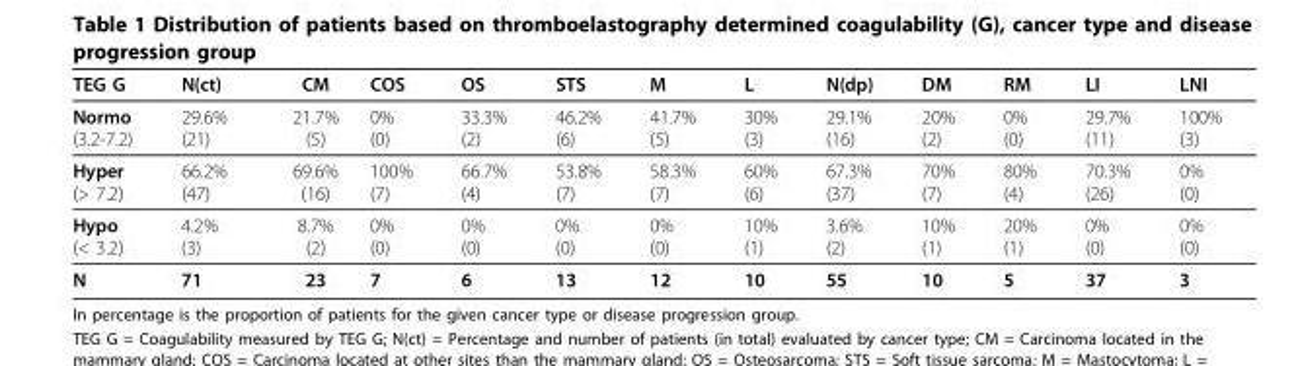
<table><thead><tr><td>TEG G</td><td>N(ct)</td><td>CM</td><td>COS</td><td>OS</td><td>STS</td><td>M</td><td>L</td><td>N(dp)</td><td>DM</td><td>RM</td><td>LI</td><td>LNI</td></tr></thead><tbody><tr><td>Normo (3.2-7.2)</td><td>29.6% (21)</td><td>21.7% (5)</td><td>0% (0)</td><td>33.3% (2)</td><td>46.2% (6)</td><td>41.7% (5)</td><td>30% (3)</td><td>29.1% (16)</td><td>20% (2)</td><td>0% (0)</td><td>29.7% (11)</td><td>100% (3)</td></tr><tr><td>Hyper (&gt; 7.2)</td><td>66.2% (47)</td><td>69.6% (16)</td><td>100% (7)</td><td>66.7% (4)</td><td>53.8% (7)</td><td>58.3% (7)</td><td>60% (6)</td><td>67.3% (37)</td><td>70% (7)</td><td>80% (4)</td><td>70.3% (26)</td><td>0% (0)</td></tr><tr><td>Hypo (&lt; 3.2)</td><td>4.2% (3)</td><td>8.7% (2)</td><td>0% (0)</td><td>0% (0)</td><td>0% (0)</td><td>0% (0)</td><td>10% (1)</td><td>3.6% (2)</td><td>10% (1)</td><td>20% (1)</td><td>0% (0)</td><td>0% (0)</td></tr><tr><td>N</td><td>71</td><td>23</td><td>7</td><td>6</td><td>13</td><td>12</td><td>10</td><td>55</td><td>10</td><td>5</td><td>37</td><td>3</td></tr></tbody></table>